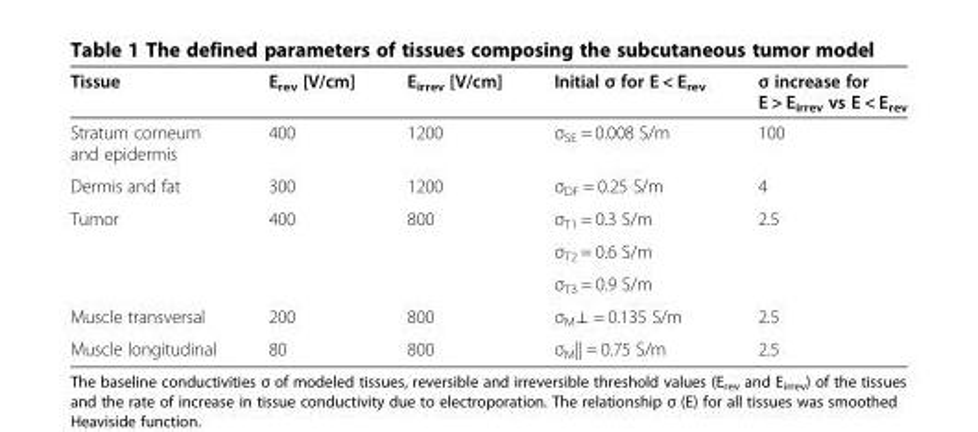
<table><thead><tr><td>Tissue</td><td>E<sub>rev</sub> [V/cm]</td><td>E<sub>irrev</sub> [V/cm]</td><td>Initial σ for E &lt; E<sub>rev</sub></td><td>σ increase for E &gt; E<sub>irrev</sub> vs E &lt; E<sub>rev</sub></td></tr></thead><tbody><tr><td>Stratum corneum and epidermis</td><td>400</td><td>1200</td><td>σ<sub>SE</sub> = 0.008 S/m</td><td>100</td></tr><tr><td>Dermis and fat</td><td>300</td><td>1200</td><td>σ<sub>DF</sub> = 0.25 S/m</td><td>4</td></tr><tr><td rowspan="3">Tumor</td><td rowspan="3">400</td><td rowspan="3">800</td><td>σ<sub>T1</sub> = 0.3 S/m</td><td>2.5</td></tr><tr><td>σ<sub>T2</sub> = 0.6 S/m</td><td></td></tr><tr><td>σ<sub>T3</sub> = 0.9 S/m</td><td></td></tr><tr><td>Muscle transversal</td><td>200</td><td>800</td><td>σ<sub>M</sub>⊥ = 0.135 S/m</td><td>2.5</td></tr><tr><td>Muscle longitudinal</td><td>80</td><td>800</td><td>σ<sub>M</sub>|| = 0.75 S/m</td><td>2.5</td></tr></tbody></table>